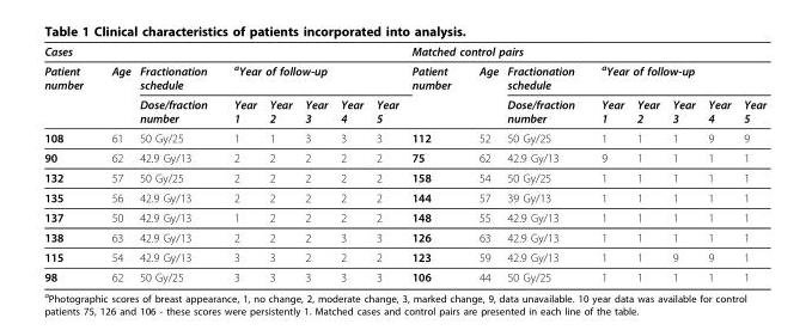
<table><thead><tr><td colspan="8">Cases</td><td colspan="8">Matched control pairs</td></tr><tr><td rowspan="2">Patient number</td><td rowspan="2">Age</td><td rowspan="2">Fractionation schedule Dose/fraction number</td><td colspan="5"><sup>a</sup>Year of follow-up</td><td rowspan="2">Patient number</td><td rowspan="2">Age</td><td rowspan="2">Fractionation schedule Dose/fraction number</td><td colspan="5"><sup>a</sup>Year of follow-up</td></tr><tr><td>Year 1</td><td>Year 2</td><td>Year 3</td><td>Year 4</td><td>Year 5</td><td>Year 1</td><td>Year 2</td><td>Year 3</td><td>Year 4</td><td>Year 5</td></tr></thead><tbody><tr><td>108</td><td>61</td><td>50 Gy/25</td><td>1</td><td>1</td><td>3</td><td>3</td><td>3</td><td>112</td><td>52</td><td>50 Gy/25</td><td>1</td><td>1</td><td>1</td><td>9</td><td>9</td></tr><tr><td>90</td><td>62</td><td>42.9 Gy/13</td><td>2</td><td>2</td><td>2</td><td>2</td><td>2</td><td>75</td><td>62</td><td>42.9 Gy/13</td><td>9</td><td>1</td><td>1</td><td>1</td><td>1</td></tr><tr><td>132</td><td>57</td><td>50 Gy/25</td><td>2</td><td>2</td><td>2</td><td>2</td><td>2</td><td>158</td><td>54</td><td>50 Gy/25</td><td>1</td><td>1</td><td>1</td><td>1</td><td>1</td></tr><tr><td>135</td><td>56</td><td>42.9 Gy/13</td><td>2</td><td>2</td><td>2</td><td>2</td><td>2</td><td>144</td><td>57</td><td>39 Gy/13</td><td>1</td><td>1</td><td>1</td><td>1</td><td>1</td></tr><tr><td>137</td><td>50</td><td>42.9 Gy/13</td><td>1</td><td>2</td><td>2</td><td>2</td><td>2</td><td>148</td><td>55</td><td>42.9 Gy/13</td><td>1</td><td>1</td><td>1</td><td>1</td><td>1</td></tr><tr><td>138</td><td>63</td><td>42.9 Gy/13</td><td>2</td><td>2</td><td>2</td><td>3</td><td>3</td><td>126</td><td>63</td><td>42.9 Gy/13</td><td>1</td><td>1</td><td>1</td><td>1</td><td>1</td></tr><tr><td>115</td><td>54</td><td>42.9 Gy/13</td><td>3</td><td>3</td><td>2</td><td>2</td><td>2</td><td>123</td><td>59</td><td>42.9 Gy/13</td><td>1</td><td>1</td><td>9</td><td>9</td><td>1</td></tr><tr><td>98</td><td>62</td><td>50 Gy/25</td><td>3</td><td>3</td><td>3</td><td>3</td><td>3</td><td>106</td><td>44</td><td>50 Gy/25</td><td>1</td><td>1</td><td>1</td><td>1</td><td>1</td></tr></tbody></table>